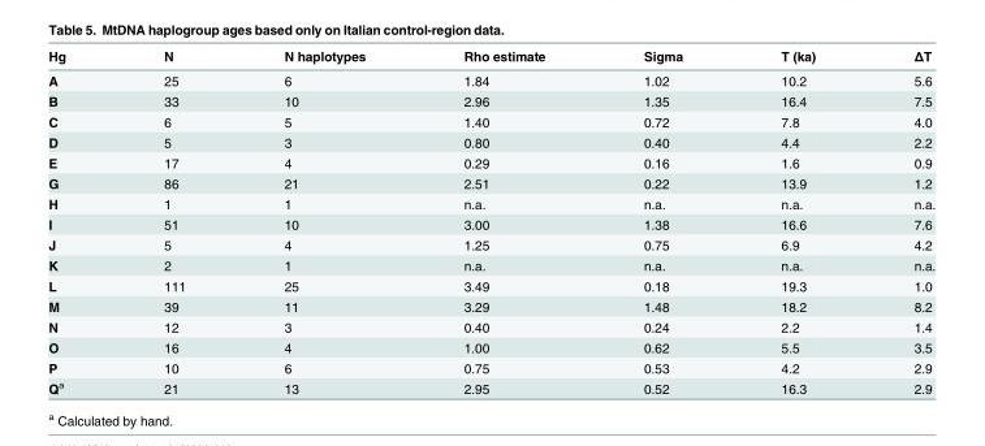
<table><thead><tr><td>Hg</td><td>N</td><td>N haplotypes</td><td>Rho estimate</td><td>Sigma</td><td>T (ka)</td><td>ΔT</td></tr></thead><tbody><tr><td>A</td><td>25</td><td>6</td><td>1.84</td><td>1.02</td><td>10.2</td><td>5.6</td></tr><tr><td>B</td><td>33</td><td>10</td><td>2.96</td><td>1.35</td><td>16.4</td><td>7.5</td></tr><tr><td>C</td><td>6</td><td>5</td><td>1.40</td><td>0.72</td><td>7.8</td><td>4.0</td></tr><tr><td>D</td><td>5</td><td>3</td><td>0.80</td><td>0.40</td><td>4.4</td><td>2.2</td></tr><tr><td>E</td><td>17</td><td>4</td><td>0.29</td><td>0.16</td><td>1.6</td><td>0.9</td></tr><tr><td>G</td><td>86</td><td>21</td><td>2.51</td><td>0.22</td><td>13.9</td><td>1.2</td></tr><tr><td>H</td><td>1</td><td>1</td><td>n.a.</td><td>n.a.</td><td>n.a.</td><td>n.a.</td></tr><tr><td>I</td><td>51</td><td>10</td><td>3.00</td><td>1.38</td><td>16.6</td><td>7.6</td></tr><tr><td>J</td><td>5</td><td>4</td><td>1.25</td><td>0.75</td><td>6.9</td><td>4.2</td></tr><tr><td>K</td><td>2</td><td>1</td><td>n.a.</td><td>n.a.</td><td>n.a.</td><td>n.a.</td></tr><tr><td>L</td><td>111</td><td>25</td><td>3.49</td><td>0.18</td><td>19.3</td><td>1.0</td></tr><tr><td>M</td><td>39</td><td>11</td><td>3.29</td><td>1.48</td><td>18.2</td><td>8.2</td></tr><tr><td>N</td><td>12</td><td>3</td><td>0.40</td><td>0.24</td><td>2.2</td><td>1.4</td></tr><tr><td>O</td><td>16</td><td>4</td><td>1.00</td><td>0.62</td><td>5.5</td><td>3.5</td></tr><tr><td>P</td><td>10</td><td>6</td><td>0.75</td><td>0.53</td><td>4.2</td><td>2.9</td></tr><tr><td>Q<sup>a</sup></td><td>21</td><td>13</td><td>2.95</td><td>0.52</td><td>16.3</td><td>2.9</td></tr></tbody></table>